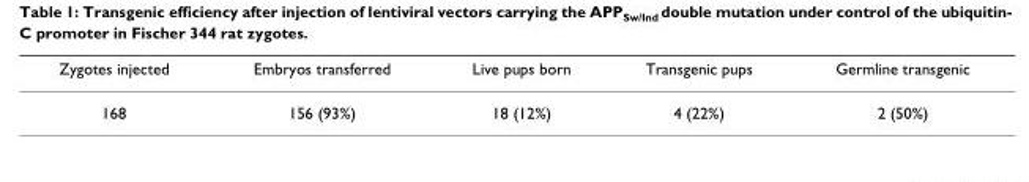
<table><thead><tr><td>Zygotes injected</td><td>Embryos transferred</td><td>Live pups born</td><td>Transgenic pups</td><td>Germline transgenic</td></tr></thead><tbody><tr><td>168</td><td>156 (93%)</td><td>18 (12%)</td><td>4 (22%)</td><td>2 (50%)</td></tr></tbody></table>